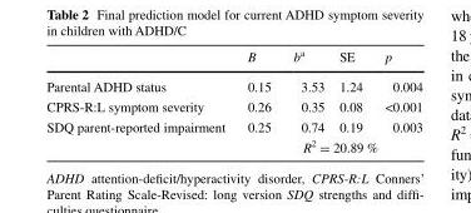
<table><thead><tr><td></td><td>B</td><td>b<sup>a</sup></td><td>SE</td><td>p</td></tr></thead><tbody><tr><td>Parental ADHD status</td><td>0.15</td><td>3.53</td><td>1.24</td><td>0.004</td></tr><tr><td>CPRS-R:L symptom severity</td><td>0.26</td><td>0.35</td><td>0.08</td><td>&lt;0.001</td></tr><tr><td>SDQ parent-reported impairment</td><td>0.25</td><td>0.74</td><td>0.19</td><td>0.003</td></tr><tr><td colspan="2"></td><td colspan="3">R<sup>2</sup> = 20.89 %</td></tr></tbody></table>